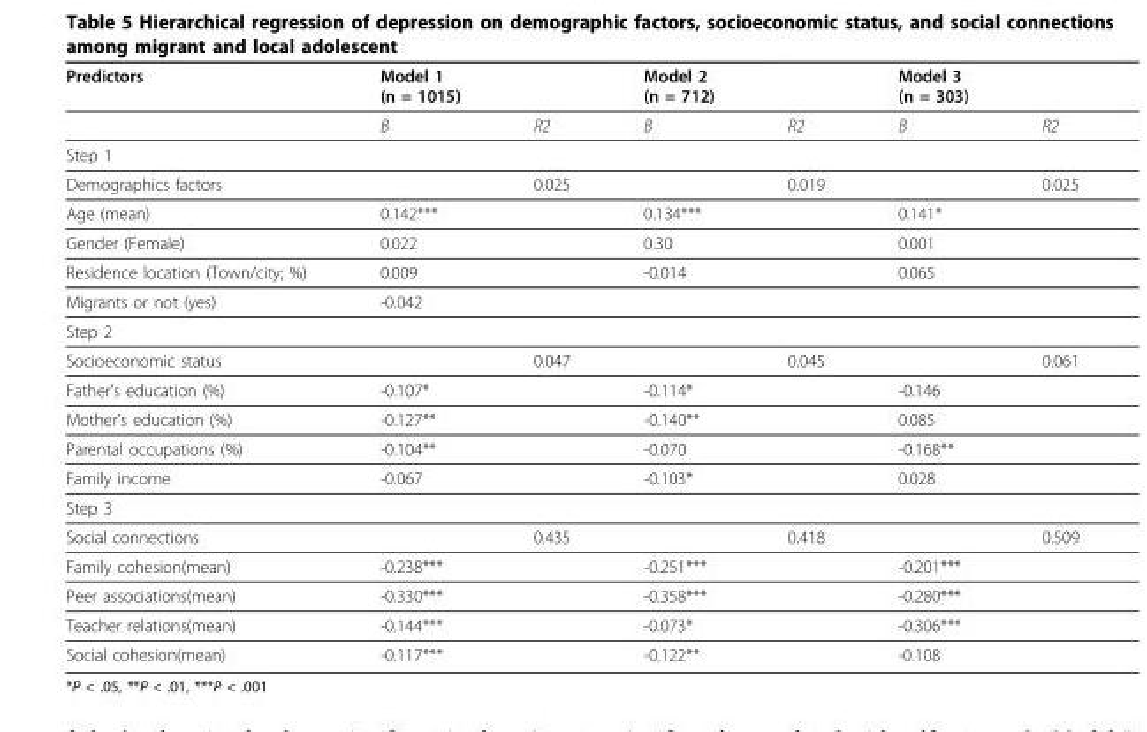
<table><thead><tr><td>Predictors</td><td>Model 1 (n = 1015)</td><td></td><td>Model 2 (n = 712)</td><td></td><td>Model 3 (n = 303)</td><td></td></tr></thead><tbody><tr><td></td><td>B</td><td>R2</td><td>B</td><td>R2</td><td>B</td><td>R2</td></tr><tr><td colspan="7">Step 1</td></tr><tr><td>Demographics factors</td><td></td><td>0.025</td><td></td><td>0.019</td><td></td><td>0.025</td></tr><tr><td>Age (mean)</td><td>0.142***</td><td></td><td>0.134***</td><td></td><td>0.141*</td><td></td></tr><tr><td>Gender (Female)</td><td>0.022</td><td></td><td>0.30</td><td></td><td>0.001</td><td></td></tr><tr><td>Residence location (Town/city; %)</td><td>0.009</td><td></td><td>-0.014</td><td></td><td>0.065</td><td></td></tr><tr><td>Migrants or not (yes)</td><td>-0.042</td><td></td><td></td><td></td><td></td><td></td></tr><tr><td colspan="7">Step 2</td></tr><tr><td>Socioeconomic status</td><td></td><td>0.047</td><td></td><td>0.045</td><td></td><td>0.061</td></tr><tr><td>Father’s education (%)</td><td>-0.107*</td><td></td><td>-0.114*</td><td></td><td>-0.146</td><td></td></tr><tr><td>Mother’s education (%)</td><td>-0.127**</td><td></td><td>-0.140**</td><td></td><td>0.085</td><td></td></tr><tr><td>Parental occupations (%)</td><td>-0.104**</td><td></td><td>-0.070</td><td></td><td>-0.168**</td><td></td></tr><tr><td>Family income</td><td>-0.067</td><td></td><td>-0.103*</td><td></td><td>0.028</td><td></td></tr><tr><td colspan="7">Step 3</td></tr><tr><td>Social connections</td><td></td><td>0.435</td><td></td><td>0.418</td><td></td><td>0.509</td></tr><tr><td>Family cohesion(mean)</td><td>-0.238***</td><td></td><td>-0.251***</td><td></td><td>-0.201***</td><td></td></tr><tr><td>Peer associations(mean)</td><td>-0.330***</td><td></td><td>-0.358***</td><td></td><td>-0.280***</td><td></td></tr><tr><td>Teacher relations(mean)</td><td>-0.144***</td><td></td><td>-0.073*</td><td></td><td>-0.306***</td><td></td></tr><tr><td>Social cohesion(mean)</td><td>-0.117***</td><td></td><td>-0.122**</td><td></td><td>-0.108</td><td></td></tr></tbody></table>